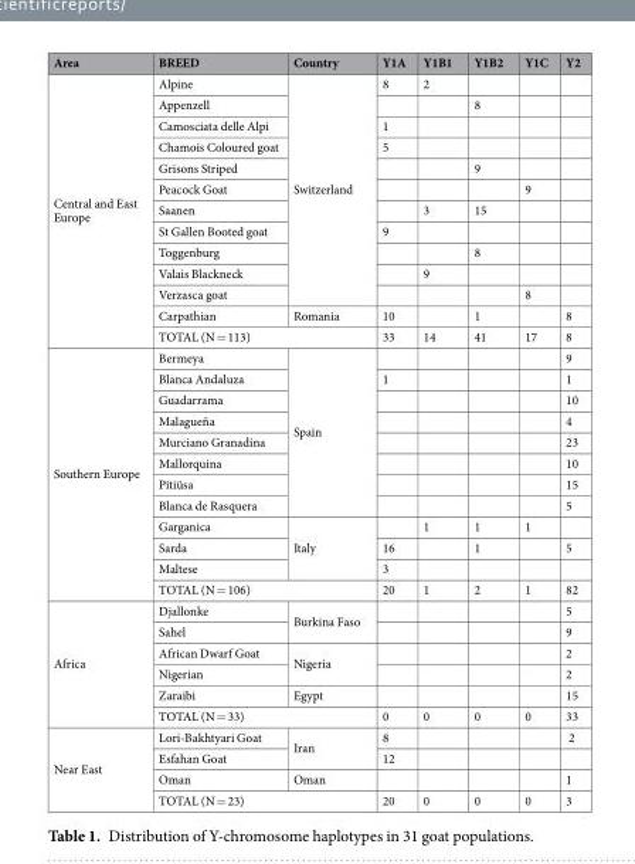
<table><thead><tr><td>Area</td><td>BREED</td><td>Country</td><td>Y1A</td><td>Y1B1</td><td>Y1B2</td><td>Y1C</td><td>Y2</td></tr></thead><tbody><tr><td rowspan="13">Central and East Europe</td><td>Alpine</td><td rowspan="11">Switzerland</td><td>8</td><td>2</td><td></td><td></td><td></td></tr><tr><td>Appenzell</td><td></td><td></td><td>8</td><td></td><td></td></tr><tr><td>Camosciata delle Alpi</td><td>1</td><td></td><td></td><td></td><td></td></tr><tr><td>Chamois Coloured goat</td><td>5</td><td></td><td></td><td></td><td></td></tr><tr><td>Grisons Striped</td><td></td><td></td><td>9</td><td></td><td></td></tr><tr><td>Peacock Goat</td><td></td><td></td><td></td><td>9</td><td></td></tr><tr><td>Saanen</td><td></td><td>3</td><td>15</td><td></td><td></td></tr><tr><td>St Gallen Booted goat</td><td>9</td><td></td><td></td><td></td><td></td></tr><tr><td>Toggenburg</td><td></td><td></td><td>8</td><td></td><td></td></tr><tr><td>Valais Blackneck</td><td></td><td>9</td><td></td><td></td><td></td></tr><tr><td>Verzasca goat</td><td></td><td></td><td></td><td>8</td><td></td></tr><tr><td>Carpathian</td><td>Romania</td><td>10</td><td></td><td>1</td><td></td><td>8</td></tr><tr><td colspan="2">TOTAL (N = 113)</td><td>33</td><td>14</td><td>41</td><td>17</td><td>8</td></tr><tr><td rowspan="12">Southern Europe</td><td>Bermeya</td><td rowspan="8">Spain</td><td></td><td></td><td></td><td></td><td>9</td></tr><tr><td>Blanca Andaluza</td><td>1</td><td></td><td></td><td></td><td>1</td></tr><tr><td>Guadarrama</td><td></td><td></td><td></td><td></td><td>10</td></tr><tr><td>Malagueña</td><td></td><td></td><td></td><td></td><td>4</td></tr><tr><td>Murciano Granadina</td><td></td><td></td><td></td><td></td><td>23</td></tr><tr><td>Mallorquina</td><td></td><td></td><td></td><td></td><td>10</td></tr><tr><td>Pitiüsa</td><td></td><td></td><td></td><td></td><td>15</td></tr><tr><td>Blanca de Rasquera</td><td></td><td></td><td></td><td></td><td>5</td></tr><tr><td>Garganica</td><td rowspan="3">Italy</td><td></td><td>1</td><td>1</td><td>1</td><td></td></tr><tr><td>Sarda</td><td>16</td><td></td><td>1</td><td></td><td>5</td></tr><tr><td>Maltese</td><td>3</td><td></td><td></td><td></td><td></td></tr><tr><td colspan="2">TOTAL (N = 106)</td><td>20</td><td>1</td><td>2</td><td>1</td><td>82</td></tr><tr><td rowspan="6">Africa</td><td>Djallonke</td><td rowspan="2">Burkina Faso</td><td></td><td></td><td></td><td></td><td>5</td></tr><tr><td>Sahel</td><td></td><td></td><td></td><td></td><td>9</td></tr><tr><td>African Dwarf Goat</td><td rowspan="2">Nigeria</td><td></td><td></td><td></td><td></td><td>2</td></tr><tr><td>Nigerian</td><td></td><td></td><td></td><td></td><td>2</td></tr><tr><td>Zaraibi</td><td>Egypt</td><td></td><td></td><td></td><td></td><td>15</td></tr><tr><td colspan="2">TOTAL (N = 33)</td><td>0</td><td>0</td><td>0</td><td>0</td><td>33</td></tr><tr><td rowspan="4">Near East</td><td>Lori-Bakhtyari Goat</td><td rowspan="2">Iran</td><td>8</td><td></td><td></td><td></td><td>2</td></tr><tr><td>Esfahan Goat</td><td>12</td><td></td><td></td><td></td><td></td></tr><tr><td>Oman</td><td>Oman</td><td></td><td></td><td></td><td></td><td>1</td></tr><tr><td colspan="2">TOTAL (N = 23)</td><td>20</td><td>0</td><td>0</td><td>0</td><td>3</td></tr></tbody></table>